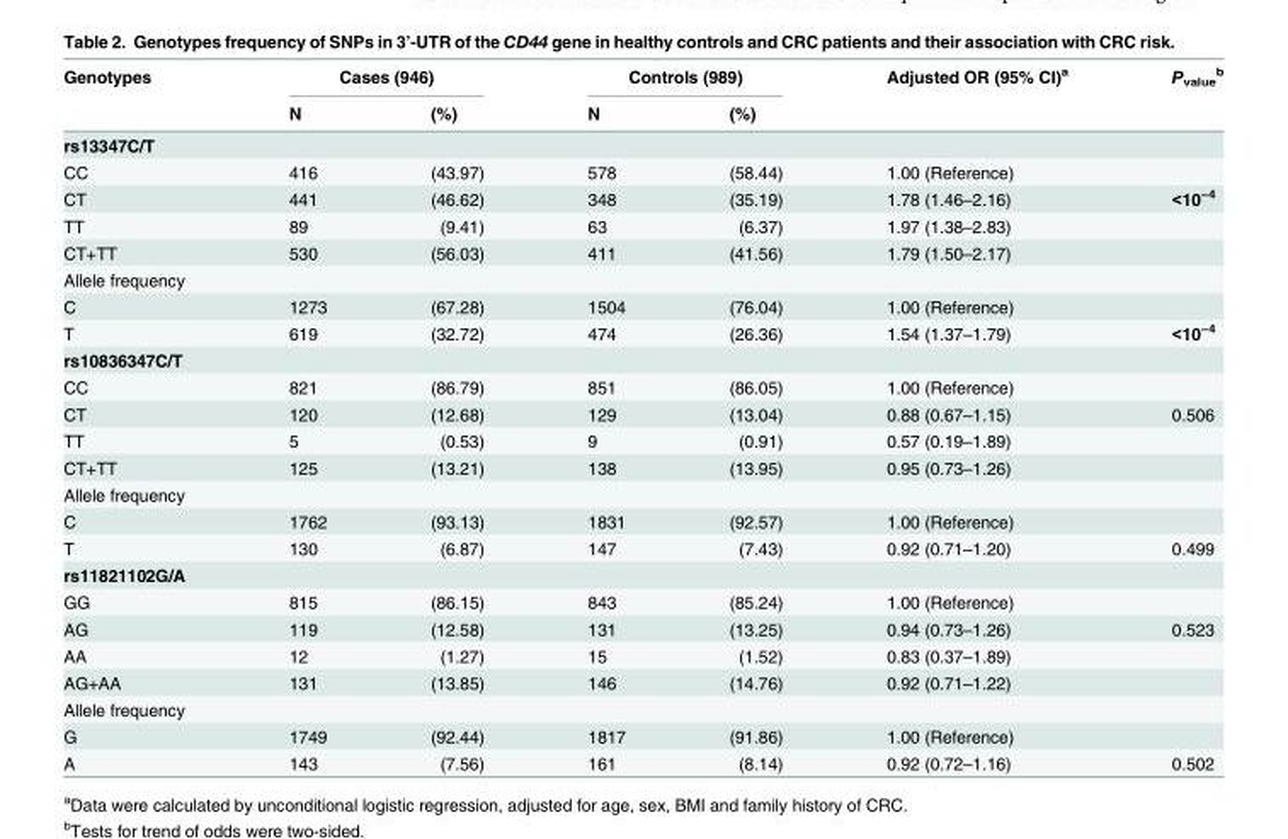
<table><thead><tr><td rowspan="2">Genotypes</td><td colspan="2">Cases (946)</td><td colspan="2">Controls (989)</td><td rowspan="2">Adjusted OR (95% CI)<sup>a</sup></td><td rowspan="2">P<sub>value</sub> <sup>b</sup></td></tr><tr><td>N</td><td>(%)</td><td>N</td><td>(%)</td></tr></thead><tbody><tr><td colspan="7">rs13347C/T</td></tr><tr><td>CC</td><td>416</td><td>(43.97)</td><td>578</td><td>(58.44)</td><td>1.00 (Reference)</td><td></td></tr><tr><td>CT</td><td>441</td><td>(46.62)</td><td>348</td><td>(35.19)</td><td>1.78 (1.46–2.16)</td><td>&lt;10<sup>−4</sup></td></tr><tr><td>TT</td><td>89</td><td>(9.41)</td><td>63</td><td>(6.37)</td><td>1.97 (1.38–2.83)</td><td></td></tr><tr><td>CT+TT</td><td>530</td><td>(56.03)</td><td>411</td><td>(41.56)</td><td>1.79 (1.50–2.17)</td><td></td></tr><tr><td colspan="7">Allele frequency</td></tr><tr><td>C</td><td>1273</td><td>(67.28)</td><td>1504</td><td>(76.04)</td><td>1.00 (Reference)</td><td></td></tr><tr><td>T</td><td>619</td><td>(32.72)</td><td>474</td><td>(26.36)</td><td>1.54 (1.37–1.79)</td><td>&lt;10<sup>−4</sup></td></tr><tr><td colspan="7">rs10836347C/T</td></tr><tr><td>CC</td><td>821</td><td>(86.79)</td><td>851</td><td>(86.05)</td><td>1.00 (Reference)</td><td></td></tr><tr><td>CT</td><td>120</td><td>(12.68)</td><td>129</td><td>(13.04)</td><td>0.88 (0.67–1.15)</td><td>0.506</td></tr><tr><td>TT</td><td>5</td><td>(0.53)</td><td>9</td><td>(0.91)</td><td>0.57 (0.19–1.89)</td><td></td></tr><tr><td>CT+TT</td><td>125</td><td>(13.21)</td><td>138</td><td>(13.95)</td><td>0.95 (0.73–1.26)</td><td></td></tr><tr><td colspan="7">Allele frequency</td></tr><tr><td>C</td><td>1762</td><td>(93.13)</td><td>1831</td><td>(92.57)</td><td>1.00 (Reference)</td><td></td></tr><tr><td>T</td><td>130</td><td>(6.87)</td><td>147</td><td>(7.43)</td><td>0.92 (0.71–1.20)</td><td>0.499</td></tr><tr><td colspan="7">rs11821102G/A</td></tr><tr><td>GG</td><td>815</td><td>(86.15)</td><td>843</td><td>(85.24)</td><td>1.00 (Reference)</td><td></td></tr><tr><td>AG</td><td>119</td><td>(12.58)</td><td>131</td><td>(13.25)</td><td>0.94 (0.73–1.26)</td><td>0.523</td></tr><tr><td>AA</td><td>12</td><td>(1.27)</td><td>15</td><td>(1.52)</td><td>0.83 (0.37–1.89)</td><td></td></tr><tr><td>AG+AA</td><td>131</td><td>(13.85)</td><td>146</td><td>(14.76)</td><td>0.92 (0.71–1.22)</td><td></td></tr><tr><td colspan="7">Allele frequency</td></tr><tr><td>G</td><td>1749</td><td>(92.44)</td><td>1817</td><td>(91.86)</td><td>1.00 (Reference)</td><td></td></tr><tr><td>A</td><td>143</td><td>(7.56)</td><td>161</td><td>(8.14)</td><td>0.92 (0.72–1.16)</td><td>0.502</td></tr></tbody></table>